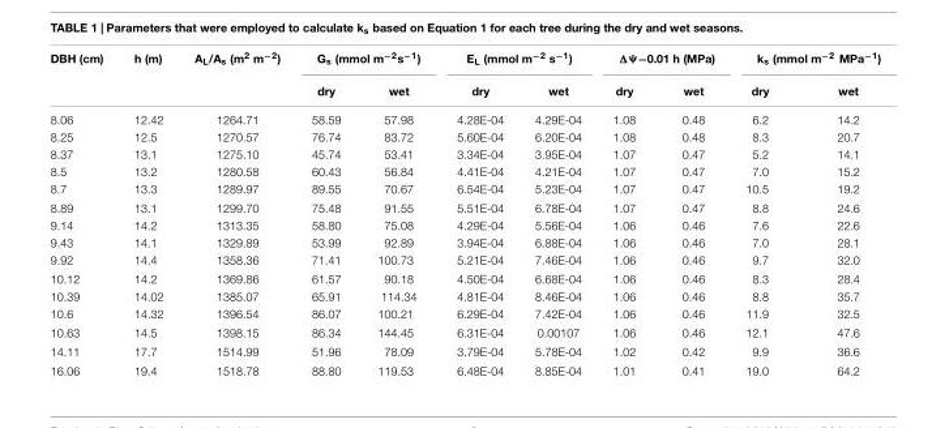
<table><thead><tr><td rowspan="2">DBH (cm)</td><td rowspan="2">h (m)</td><td rowspan="2">A<sub>L</sub>/A<sub>s</sub> (m<sup>2</sup> m<sup>−2</sup>)</td><td colspan="2">G<sub>s</sub> (mmol m<sup>−2</sup>s<sup>−1</sup>)</td><td colspan="2">E<sub>L</sub> (mmol m<sup>−2</sup> s<sup>−1</sup>)</td><td colspan="2">ΔΨ−0.01 h (MPa)</td><td colspan="2">k<sub>s</sub> (mmol m<sup>−2</sup> MPa<sup>−1</sup>)</td></tr><tr><td>dry</td><td>wet</td><td>dry</td><td>wet</td><td>dry</td><td>wet</td><td>dry</td><td>wet</td></tr></thead><tbody><tr><td>8.06</td><td>12.42</td><td>1264.71</td><td>58.59</td><td>57.98</td><td>4.28E-04</td><td>4.29E-04</td><td>1.08</td><td>0.48</td><td>6.2</td><td>14.2</td></tr><tr><td>8.25</td><td>12.5</td><td>1270.57</td><td>76.74</td><td>83.72</td><td>5.60E-04</td><td>6.20E-04</td><td>1.08</td><td>0.48</td><td>8.3</td><td>20.7</td></tr><tr><td>8.37</td><td>13.1</td><td>1275.10</td><td>45.74</td><td>53.41</td><td>3.34E-04</td><td>3.95E-04</td><td>1.07</td><td>0.47</td><td>5.2</td><td>14.1</td></tr><tr><td>8.5</td><td>13.2</td><td>1280.58</td><td>60.43</td><td>56.84</td><td>4.41E-04</td><td>4.21E-04</td><td>1.07</td><td>0.47</td><td>7.0</td><td>15.2</td></tr><tr><td>8.7</td><td>13.3</td><td>1289.97</td><td>89.55</td><td>70.67</td><td>6.54E-04</td><td>5.23E-04</td><td>1.07</td><td>0.47</td><td>10.5</td><td>19.2</td></tr><tr><td>8.89</td><td>13.1</td><td>1299.70</td><td>75.48</td><td>91.55</td><td>5.51E-04</td><td>6.78E-04</td><td>1.07</td><td>0.47</td><td>8.8</td><td>24.6</td></tr><tr><td>9.14</td><td>14.2</td><td>1313.35</td><td>58.80</td><td>75.08</td><td>4.29E-04</td><td>5.56E-04</td><td>1.06</td><td>0.46</td><td>7.6</td><td>22.6</td></tr><tr><td>9.43</td><td>14.1</td><td>1329.89</td><td>53.99</td><td>92.89</td><td>3.94E-04</td><td>6.88E-04</td><td>1.06</td><td>0.46</td><td>7.0</td><td>28.1</td></tr><tr><td>9.92</td><td>14.4</td><td>1358.36</td><td>71.41</td><td>100.73</td><td>5.21E-04</td><td>7.46E-04</td><td>1.06</td><td>0.46</td><td>9.7</td><td>32.0</td></tr><tr><td>10.12</td><td>14.2</td><td>1369.86</td><td>61.57</td><td>90.18</td><td>4.50E-04</td><td>6.68E-04</td><td>1.06</td><td>0.46</td><td>8.3</td><td>28.4</td></tr><tr><td>10.39</td><td>14.02</td><td>1385.07</td><td>65.91</td><td>114.34</td><td>4.81E-04</td><td>8.46E-04</td><td>1.06</td><td>0.46</td><td>8.8</td><td>35.7</td></tr><tr><td>10.6</td><td>14.32</td><td>1396.54</td><td>86.07</td><td>100.21</td><td>6.29E-04</td><td>7.42E-04</td><td>1.06</td><td>0.46</td><td>11.9</td><td>32.5</td></tr><tr><td>10.63</td><td>14.5</td><td>1398.15</td><td>86.34</td><td>144.45</td><td>6.31E-04</td><td>0.00107</td><td>1.06</td><td>0.46</td><td>12.1</td><td>47.6</td></tr><tr><td>14.11</td><td>17.7</td><td>1514.99</td><td>51.96</td><td>78.09</td><td>3.79E-04</td><td>5.78E-04</td><td>1.02</td><td>0.42</td><td>9.9</td><td>36.6</td></tr><tr><td>16.06</td><td>19.4</td><td>1518.78</td><td>88.80</td><td>119.53</td><td>6.48E-04</td><td>8.85E-04</td><td>1.01</td><td>0.41</td><td>19.0</td><td>64.2</td></tr></tbody></table>